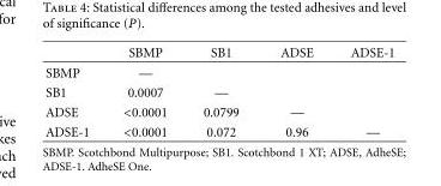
<table><thead><tr><td></td><td>SBMP</td><td>SB1</td><td>ADSE</td><td>ADSE-1</td></tr></thead><tbody><tr><td>SBMP</td><td>—</td><td></td><td></td><td></td></tr><tr><td>SB1</td><td>0.0007</td><td>—</td><td></td><td></td></tr><tr><td>ADSE</td><td>&lt;0.0001</td><td>0.0799</td><td>—</td><td></td></tr><tr><td>ADSE-1</td><td>&lt;0.0001</td><td>0.072</td><td>0.96</td><td>—</td></tr></tbody></table>